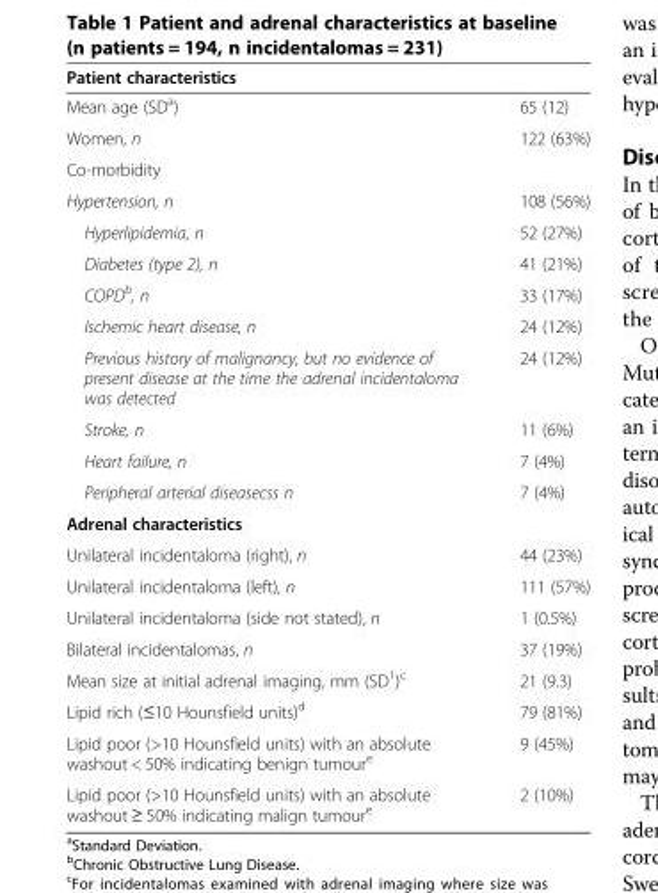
<table><thead><tr><td>Patient characteristics</td><td></td></tr></thead><tbody><tr><td>Mean age (SD<sup>a</sup>)</td><td>65 (12)</td></tr><tr><td>Women, n</td><td>122 (63%)</td></tr><tr><td colspan="2">Co-morbidity</td></tr><tr><td>Hypertension, n</td><td>108 (56%)</td></tr><tr><td>Hyperlipidemia, n</td><td>52 (27%)</td></tr><tr><td>Diabetes (type 2), n</td><td>41 (21%)</td></tr><tr><td>COPD<sup>b</sup>, n</td><td>33 (17%)</td></tr><tr><td>Ischemic heart disease, n</td><td>24 (12%)</td></tr><tr><td>Previous history of malignancy, but no evidence of present disease at the time the adrenal incidentaloma was detected</td><td>24 (12%)</td></tr><tr><td>Stroke, n</td><td>11 (6%)</td></tr><tr><td>Heart failure, n</td><td>7 (4%)</td></tr><tr><td>Peripheral arterial diseasecss n</td><td>7 (4%)</td></tr><tr><td colspan="2">Adrenal characteristics</td></tr><tr><td>Unilateral incidentaloma (right), n</td><td>44 (23%)</td></tr><tr><td>Unilateral incidentaloma (left), n</td><td>111 (57%)</td></tr><tr><td>Unilateral incidentaloma (side not stated), n</td><td>1 (0.5%)</td></tr><tr><td>Bilateral incidentalomas, n</td><td>37 (19%)</td></tr><tr><td>Mean size at initial adrenal imaging, mm (SD<sup>1</sup>)<sup>c</sup></td><td>21 (9.3)</td></tr><tr><td>Lipid rich (≤10 Hounsfield units)<sup>d</sup></td><td>79 (81%)</td></tr><tr><td>Lipid poor (&gt;10 Hounsfield units) with an absolute washout &lt; 50% indicating benign tumour<sup>e</sup></td><td>9 (45%)</td></tr><tr><td>Lipid poor (&gt;10 Hounsfield units) with an absolute washout ≥ 50% indicating malign tumour<sup>e</sup></td><td>2 (10%)</td></tr></tbody></table>